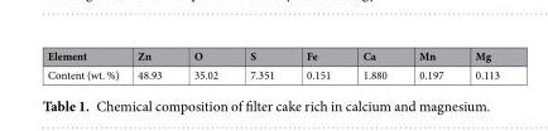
<table><thead><tr><td>Element</td><td>Zn</td><td>O</td><td>S</td><td>Fe</td><td>Ca</td><td>Mn</td><td>Mg</td></tr></thead><tbody><tr><td>Content (wt. %)</td><td>48.93</td><td>35.02</td><td>7.351</td><td>0.151</td><td>1.880</td><td>0.197</td><td>0.113</td></tr></tbody></table>